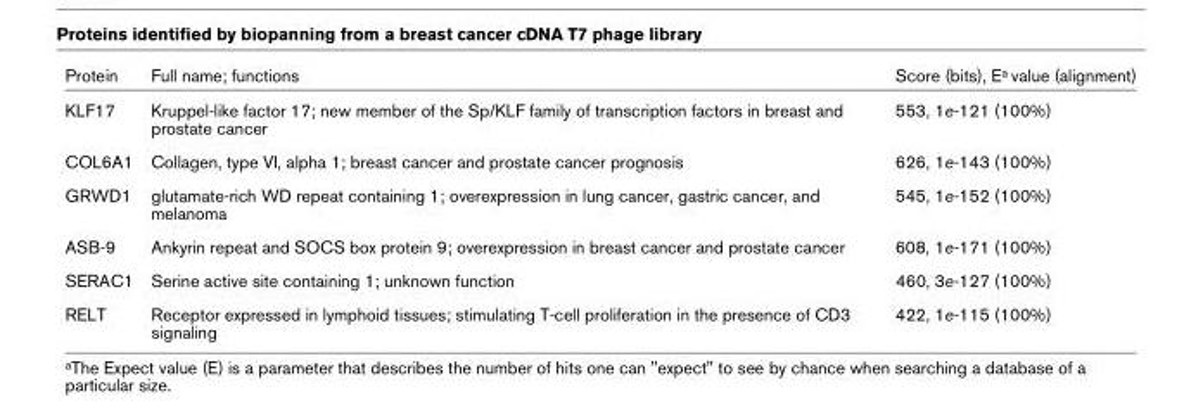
<table><thead><tr><td>Protein</td><td>Full name; functions</td><td>Score (bits), E<sup>a</sup> value (alignment)</td></tr></thead><tbody><tr><td>KLF17</td><td>Kruppel-like factor 17; new member of the Sp/KLF family of transcription factors in breast and prostate cancer</td><td>553, 1e-121 (100%)</td></tr><tr><td>COL6A1</td><td>Collagen, type VI, alpha 1; breast cancer and prostate cancer prognosis</td><td>626, 1e-143 (100%)</td></tr><tr><td>GRWD1</td><td>glutamate-rich WD repeat containing 1; overexpression in lung cancer, gastric cancer, and melanoma</td><td>545, 1e-152 (100%)</td></tr><tr><td>ASB-9</td><td>Ankyrin repeat and SOCS box protein 9; overexpression in breast cancer and prostate cancer</td><td>608, 1e-171 (100%)</td></tr><tr><td>SERAC1</td><td>Serine active site containing 1; unknown function</td><td>460, 3e-127 (100%)</td></tr><tr><td>RELT</td><td>Receptor expressed in lymphoid tissues; stimulating T-cell proliferation in the presence of CD3 signaling</td><td>422, 1e-115 (100%)</td></tr></tbody></table>